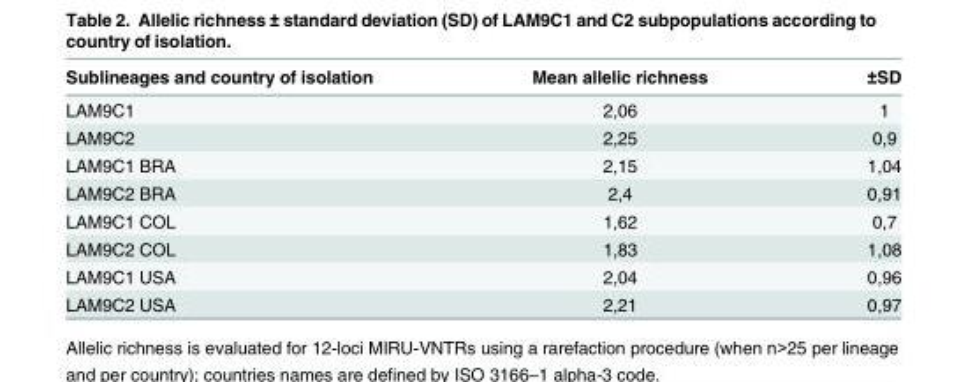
<table><thead><tr><td>Sublineages and country of isolation</td><td>Mean allelic richness</td><td>±SD</td></tr></thead><tbody><tr><td>LAM9C1</td><td>2,06</td><td>1</td></tr><tr><td>LAM9C2</td><td>2,25</td><td>0,9</td></tr><tr><td>LAM9C1 BRA</td><td>2,15</td><td>1,04</td></tr><tr><td>LAM9C2 BRA</td><td>2,4</td><td>0,91</td></tr><tr><td>LAM9C1 COL</td><td>1,62</td><td>0,7</td></tr><tr><td>LAM9C2 COL</td><td>1,83</td><td>1,08</td></tr><tr><td>LAM9C1 USA</td><td>2,04</td><td>0,96</td></tr><tr><td>LAM9C2 USA</td><td>2,21</td><td>0,97</td></tr></tbody></table>